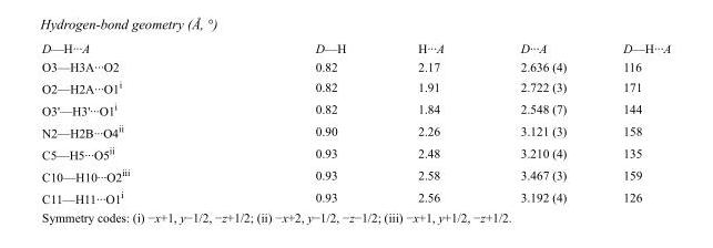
<table><tbody><tr><td>D—H···A</td><td>D—H</td><td>H···A</td><td>D···A</td><td>D—H···A</td></tr><tr><td>O3—H3A···O2</td><td>0.82</td><td>2.17</td><td>2.636 (4)</td><td>116</td></tr><tr><td>O2—H2A···O1<sup>i</sup></td><td>0.82</td><td>1.91</td><td>2.722 (3)</td><td>171</td></tr><tr><td>O3&#x27;—H3&#x27;···O1<sup>i</sup></td><td>0.82</td><td>1.84</td><td>2.548 (7)</td><td>144</td></tr><tr><td>N2—H2B···O4<sup>ii</sup></td><td>0.90</td><td>2.26</td><td>3.121 (3)</td><td>158</td></tr><tr><td>C5—H5···O5<sup>ii</sup></td><td>0.93</td><td>2.48</td><td>3.210 (4)</td><td>135</td></tr><tr><td>C10—H10···O2<sup>iii</sup></td><td>0.93</td><td>2.58</td><td>3.467 (3)</td><td>159</td></tr><tr><td>C11—H11···O1<sup>i</sup></td><td>0.93</td><td>2.56</td><td>3.192 (4)</td><td>126</td></tr></tbody></table>